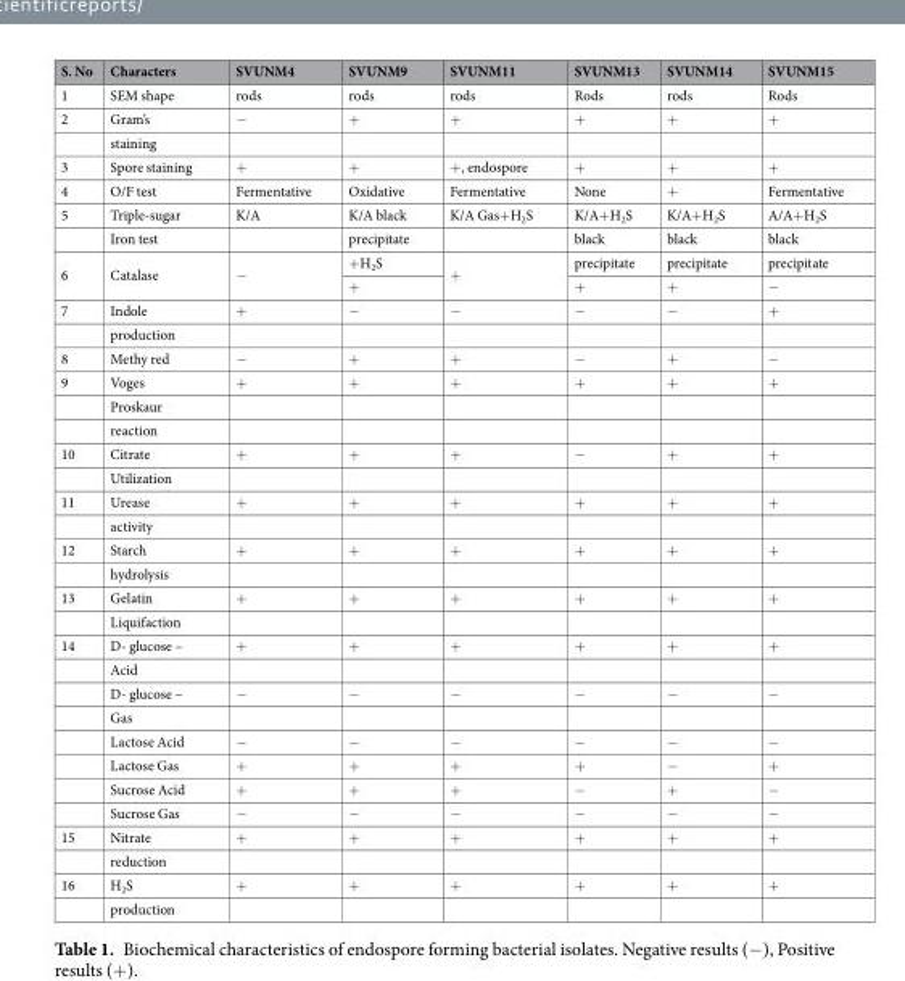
<table><thead><tr><td>S. No</td><td>Characters</td><td>SVUNM4</td><td>SVUNM9</td><td>SVUNM11</td><td>SVUNM13</td><td>SVUNM14</td><td>SVUNM15</td></tr></thead><tbody><tr><td>1</td><td>SEM shape</td><td>rods</td><td>rods</td><td>rods</td><td>Rods</td><td>rods</td><td>Rods</td></tr><tr><td rowspan="2">2</td><td>Gram’s</td><td>−</td><td>+</td><td>+</td><td>+</td><td>+</td><td>+</td></tr><tr><td>staining</td><td></td><td></td><td></td><td></td><td></td><td></td></tr><tr><td>3</td><td>Spore staining</td><td>+</td><td>+</td><td>+, endospore</td><td>+</td><td>+</td><td>+</td></tr><tr><td>4</td><td>O/F test</td><td>Fermentative</td><td>Oxidative</td><td>Fermentative</td><td>None</td><td>+</td><td>Fermentative</td></tr><tr><td rowspan="2">5</td><td>Triple-sugar</td><td>K/A</td><td>K/A black</td><td>K/A Gas+H<sub>2</sub>S</td><td>K/A+H<sub>2</sub>S</td><td>K/A+H<sub>2</sub>S</td><td>A/A+H<sub>2</sub>S</td></tr><tr><td>Iron test</td><td></td><td>precipitate</td><td></td><td>black</td><td>black</td><td>black</td></tr><tr><td rowspan="2">6</td><td rowspan="2">Catalase</td><td rowspan="2">−</td><td>+H<sub>2</sub>S</td><td rowspan="2">+</td><td>precipitate</td><td>precipitate</td><td>precipitate</td></tr><tr><td>+</td><td>+</td><td>+</td><td>−</td></tr><tr><td rowspan="2">7</td><td>Indole</td><td>+</td><td>−</td><td>−</td><td>−</td><td>−</td><td>+</td></tr><tr><td>production</td><td></td><td></td><td></td><td></td><td></td><td></td></tr><tr><td>8</td><td>Methy red</td><td>−</td><td>+</td><td>+</td><td>−</td><td>+</td><td>−</td></tr><tr><td rowspan="3">9</td><td>Voges</td><td>+</td><td>+</td><td>+</td><td>+</td><td>+</td><td>+</td></tr><tr><td>Proskaur</td><td></td><td></td><td></td><td></td><td></td><td></td></tr><tr><td>reaction</td><td></td><td></td><td></td><td></td><td></td><td></td></tr><tr><td rowspan="2">10</td><td>Citrate</td><td>+</td><td>+</td><td>+</td><td>−</td><td>+</td><td>+</td></tr><tr><td>Utilization</td><td></td><td></td><td></td><td></td><td></td><td></td></tr><tr><td rowspan="2">11</td><td>Urease</td><td>+</td><td>+</td><td>+</td><td>+</td><td>+</td><td>+</td></tr><tr><td>activity</td><td></td><td></td><td></td><td></td><td></td><td></td></tr><tr><td rowspan="2">12</td><td>Starch</td><td>+</td><td>+</td><td>+</td><td>+</td><td>+</td><td>+</td></tr><tr><td>hydrolysis</td><td></td><td></td><td></td><td></td><td></td><td></td></tr><tr><td rowspan="2">13</td><td>Gelatin</td><td>+</td><td>+</td><td>+</td><td>+</td><td>+</td><td>+</td></tr><tr><td>Liquifaction</td><td></td><td></td><td></td><td></td><td></td><td></td></tr><tr><td rowspan="8">14</td><td>D- glucose –</td><td>+</td><td>+</td><td>+</td><td>+</td><td>+</td><td>+</td></tr><tr><td>Acid</td><td></td><td></td><td></td><td></td><td></td><td></td></tr><tr><td>D- glucose –</td><td>−</td><td>−</td><td>−</td><td>−</td><td>−</td><td>−</td></tr><tr><td>Gas</td><td></td><td></td><td></td><td></td><td></td><td></td></tr><tr><td>Lactose Acid</td><td>−</td><td>−</td><td>−</td><td>−</td><td>−</td><td>−</td></tr><tr><td>Lactose Gas</td><td>+</td><td>+</td><td>+</td><td>+</td><td>−</td><td>+</td></tr><tr><td>Sucrose Acid</td><td>+</td><td>+</td><td>+</td><td>−</td><td>+</td><td>−</td></tr><tr><td>Sucrose Gas</td><td>−</td><td>−</td><td>−</td><td>−</td><td>−</td><td>−</td></tr><tr><td rowspan="2">15</td><td>Nitrate</td><td>+</td><td>+</td><td>+</td><td>+</td><td>+</td><td>+</td></tr><tr><td>reduction</td><td></td><td></td><td></td><td></td><td></td><td></td></tr><tr><td rowspan="2">16</td><td>H<sub>2</sub>S</td><td>+</td><td>+</td><td>+</td><td>+</td><td>+</td><td>+</td></tr><tr><td>production</td><td></td><td></td><td></td><td></td><td></td><td></td></tr></tbody></table>